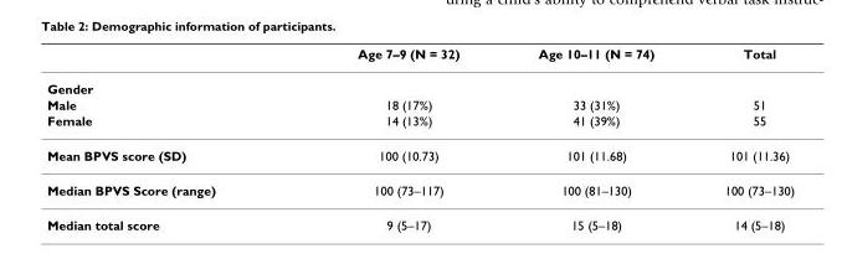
<table><thead><tr><td></td><td>Age 7–9 (N = 32)</td><td>Age 10–11 (N = 74)</td><td>Total</td></tr></thead><tbody><tr><td colspan="4">Gender</td></tr><tr><td>Male</td><td>18 (17%)</td><td>33 (31%)</td><td>51</td></tr><tr><td>Female</td><td>14 (13%)</td><td>41 (39%)</td><td>55</td></tr><tr><td>Mean BPVS score (SD)</td><td>100 (10.73)</td><td>101 (11.68)</td><td>101 (11.36)</td></tr><tr><td>Median BPVS Score (range)</td><td>100 (73–117)</td><td>100 (81–130)</td><td>100 (73–130)</td></tr><tr><td>Median total score</td><td>9 (5–17)</td><td>15 (5–18)</td><td>14 (5–18)</td></tr></tbody></table>